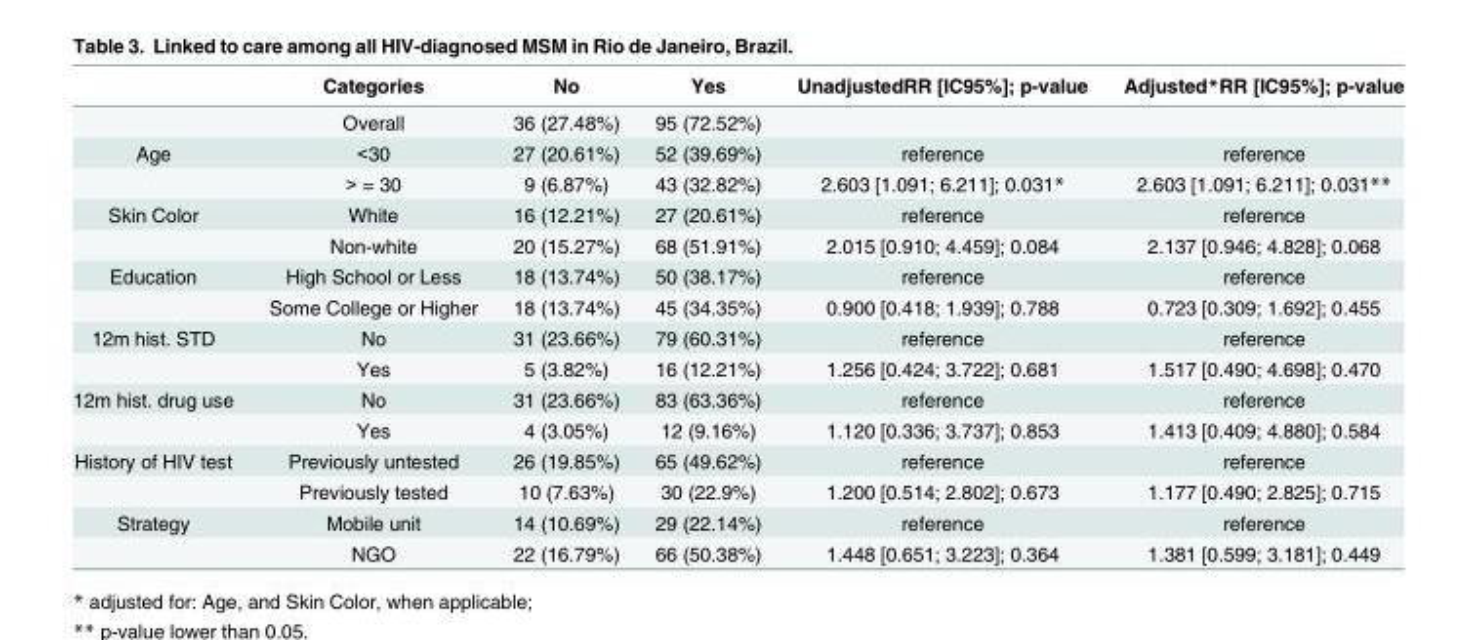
<table><thead><tr><td></td><td>Categories</td><td>No</td><td>Yes</td><td>UnadjustedRR [IC95%]; p-value</td><td>Adjusted*RR [IC95%]; p-value</td></tr></thead><tbody><tr><td></td><td>Overall</td><td>36 (27.48%)</td><td>95 (72.52%)</td><td></td><td></td></tr><tr><td rowspan="2">Age</td><td>&lt;30</td><td>27 (20.61%)</td><td>52 (39.69%)</td><td>reference</td><td>reference</td></tr><tr><td>&gt; = 30</td><td>9 (6.87%)</td><td>43 (32.82%)</td><td>2.603 [1.091; 6.211]; 0.031*</td><td>2.603 [1.091; 6.211]; 0.031**</td></tr><tr><td rowspan="2">Skin Color</td><td>White</td><td>16 (12.21%)</td><td>27 (20.61%)</td><td>reference</td><td>reference</td></tr><tr><td>Non-white</td><td>20 (15.27%)</td><td>68 (51.91%)</td><td>2.015 [0.910; 4.459]; 0.084</td><td>2.137 [0.946; 4.828]; 0.068</td></tr><tr><td rowspan="2">Education</td><td>High School or Less</td><td>18 (13.74%)</td><td>50 (38.17%)</td><td>reference</td><td>reference</td></tr><tr><td>Some College or Higher</td><td>18 (13.74%)</td><td>45 (34.35%)</td><td>0.900 [0.418; 1.939]; 0.788</td><td>0.723 [0.309; 1.692]; 0.455</td></tr><tr><td rowspan="2">12m hist. STD</td><td>No</td><td>31 (23.66%)</td><td>79 (60.31%)</td><td>reference</td><td>reference</td></tr><tr><td>Yes</td><td>5 (3.82%)</td><td>16 (12.21%)</td><td>1.256 [0.424; 3.722]; 0.681</td><td>1.517 [0.490; 4.698]; 0.470</td></tr><tr><td rowspan="2">12m hist. drug use</td><td>No</td><td>31 (23.66%)</td><td>83 (63.36%)</td><td>reference</td><td>reference</td></tr><tr><td>Yes</td><td>4 (3.05%)</td><td>12 (9.16%)</td><td>1.120 [0.336; 3.737]; 0.853</td><td>1.413 [0.409; 4.880]; 0.584</td></tr><tr><td rowspan="2">History of HIV test</td><td>Previously untested</td><td>26 (19.85%)</td><td>65 (49.62%)</td><td>reference</td><td>reference</td></tr><tr><td>Previously tested</td><td>10 (7.63%)</td><td>30 (22.9%)</td><td>1.200 [0.514; 2.802]; 0.673</td><td>1.177 [0.490; 2.825]; 0.715</td></tr><tr><td rowspan="2">Strategy</td><td>Mobile unit</td><td>14 (10.69%)</td><td>29 (22.14%)</td><td>reference</td><td>reference</td></tr><tr><td>NGO</td><td>22 (16.79%)</td><td>66 (50.38%)</td><td>1.448 [0.651; 3.223]; 0.364</td><td>1.381 [0.599; 3.181]; 0.449</td></tr></tbody></table>